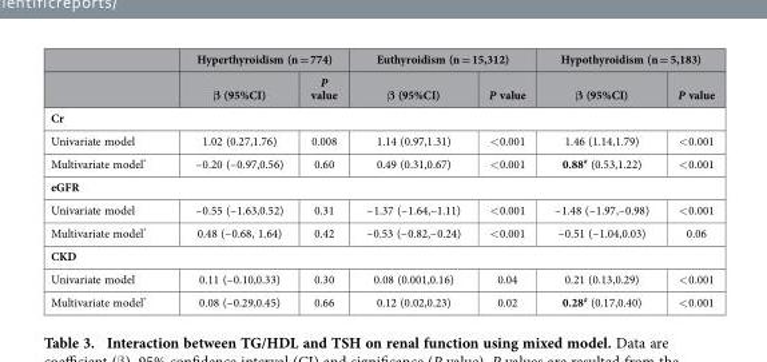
<table><thead><tr><td rowspan="2"></td><td colspan="2">Hyperthyroidism (n = 774)</td><td colspan="2">Euthyroidism (n = 15,312)</td><td colspan="2">Hypothyroidism (n = 5,183)</td></tr><tr><td>β (95%CI)</td><td>P value</td><td>β (95%CI)</td><td>P value</td><td>β (95%CI)</td><td>P value</td></tr></thead><tbody><tr><td colspan="7">Cr</td></tr><tr><td>Univariate model</td><td>1.02 (0.27,1.76)</td><td>0.008</td><td>1.14 (0.97,1.31)</td><td>&lt; 0.001</td><td>1.46 (1.14,1.79)</td><td>&lt; 0.001</td></tr><tr><td>Multivariate model*</td><td>– 0.20 (– 0.97,0.56)</td><td>0.60</td><td>0.49 (0.31,0.67)</td><td>&lt; 0.001</td><td>0.88# (0.53,1.22)</td><td>&lt; 0.001</td></tr><tr><td colspan="7">eGFR</td></tr><tr><td>Univariate model</td><td>– 0.55 (– 1.63,0.52)</td><td>0.31</td><td>– 1.37 (– 1.64,–1.11)</td><td>&lt; 0.001</td><td>– 1.48 (– 1.97,– 0.98)</td><td>&lt; 0.001</td></tr><tr><td>Multivariate model*</td><td>0.48 (– 0.68, 1.64)</td><td>0.42</td><td>– 0.53 (– 0.82,– 0.24)</td><td>&lt; 0.001</td><td>– 0.51 (– 1.04,0.03)</td><td>0.06</td></tr><tr><td colspan="7">CKD</td></tr><tr><td>Univariate model</td><td>0.11 (– 0.10,0.33)</td><td>0.30</td><td>0.08 (0.001,0.16)</td><td>0.04</td><td>0.21 (0.13,0.29)</td><td>&lt; 0.001</td></tr><tr><td>Multivariate model*</td><td>0.08 (– 0.29,0.45)</td><td>0.66</td><td>0.12 (0.02,0.23)</td><td>0.02</td><td>0.28# (0.17,0.40)</td><td>&lt; 0.001</td></tr></tbody></table>